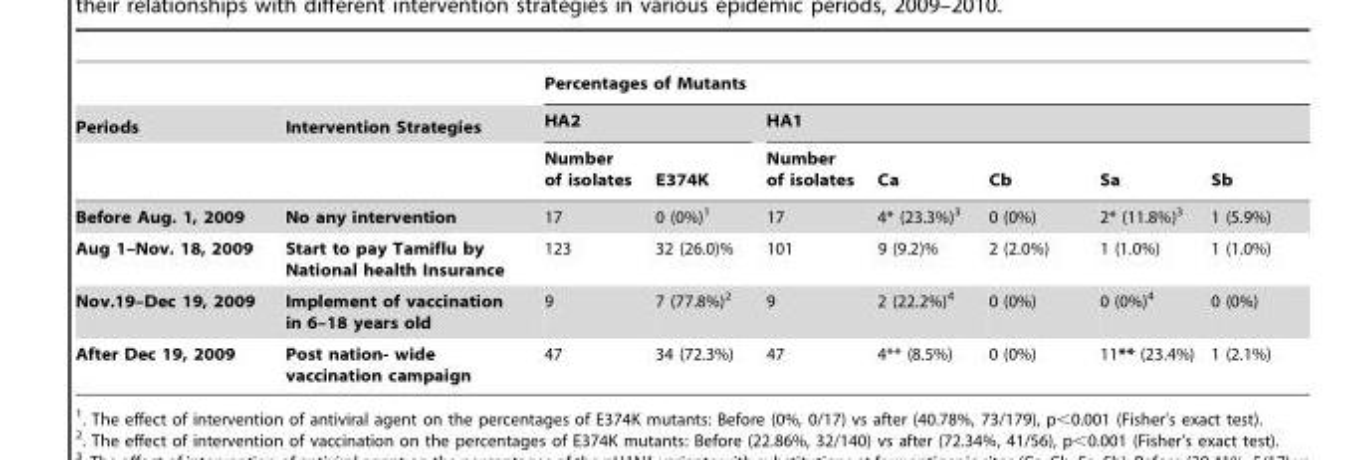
<table><thead><tr><td rowspan="3">Periods</td><td rowspan="3">Intervention Strategies</td><td colspan="7">Percentages of Mutants</td></tr><tr><td colspan="2">HA2</td><td colspan="5">HA1</td></tr><tr><td>Number of isolates</td><td>E374K</td><td>Number of isolates</td><td>Ca</td><td>Cb</td><td>Sa</td><td>Sb</td></tr></thead><tbody><tr><td>Before Aug. 1, 2009</td><td>No any intervention</td><td>17</td><td>0 (0%)<sup>1</sup></td><td>17</td><td>4* (23.3%)<sup>3</sup></td><td>0 (0%)</td><td>2* (11.8%)<sup>3</sup></td><td>1 (5.9%)</td></tr><tr><td>Aug 1–Nov. 18, 2009</td><td>Start to pay Tamiflu by National health Insurance</td><td>123</td><td>32 (26.0)%</td><td>101</td><td>9 (9.2)%</td><td>2 (2.0%)</td><td>1 (1.0%)</td><td>1 (1.0%)</td></tr><tr><td>Nov.19–Dec 19, 2009</td><td>Implement of vaccination in 6–18 years old</td><td>9</td><td>7 (77.8%)<sup>2</sup></td><td>9</td><td>2 (22.2%)<sup>4</sup></td><td>0 (0%)</td><td>0 (0%)<sup>4</sup></td><td>0 (0%)</td></tr><tr><td>After Dec 19, 2009</td><td>Post nation- wide vaccination campaign</td><td>47</td><td>34 (72.3%)</td><td>47</td><td>4** (8.5%)</td><td>0 (0%)</td><td>11** (23.4%)</td><td>1 (2.1%)</td></tr></tbody></table>